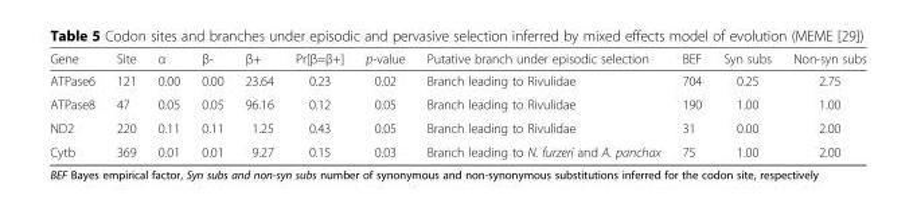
<table><thead><tr><td>Gene</td><td>Site</td><td>α</td><td>β-</td><td>β+</td><td>Pr[β=β+]</td><td>p-value</td><td>Putative branch under episodic selection</td><td>BEF</td><td>Syn subs</td><td>Non-syn subs</td></tr></thead><tbody><tr><td>ATPase6</td><td>121</td><td>0.00</td><td>0.00</td><td>23.64</td><td>0.23</td><td>0.02</td><td>Branch leading to Rivulidae</td><td>704</td><td>0.25</td><td>2.75</td></tr><tr><td>ATPase8</td><td>47</td><td>0.05</td><td>0.05</td><td>96.16</td><td>0.12</td><td>0.05</td><td>Branch leading to Rivulidae</td><td>190</td><td>1.00</td><td>1.00</td></tr><tr><td>ND2</td><td>220</td><td>0.11</td><td>0.11</td><td>1.25</td><td>0.43</td><td>0.05</td><td>Branch leading to Rivulidae</td><td>31</td><td>0.00</td><td>2.00</td></tr><tr><td>Cytb</td><td>369</td><td>0.01</td><td>0.01</td><td>9.27</td><td>0.15</td><td>0.03</td><td>Branch leading to N. furzeri and A. panchax</td><td>75</td><td>1.00</td><td>2.00</td></tr></tbody></table>